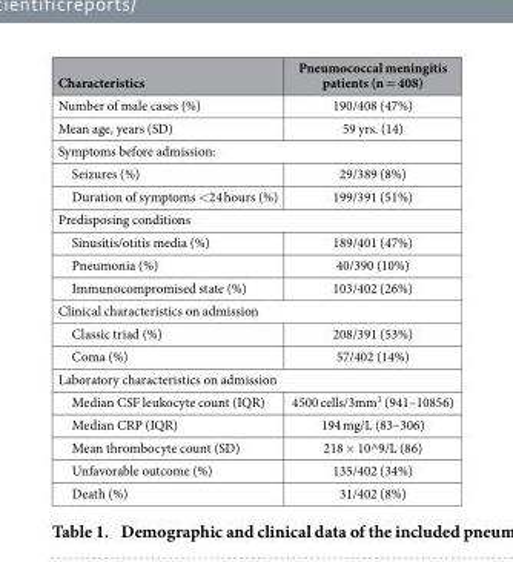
<table><thead><tr><td>Characteristics</td><td>Pneumococcal meningitis patients (n = 408)</td></tr></thead><tbody><tr><td>Number of male cases (%)</td><td>190/408 (47%)</td></tr><tr><td>Mean age, years (SD)</td><td>59 yrs. (14)</td></tr><tr><td colspan="2">Symptoms before admission:</td></tr><tr><td>Seizures (%)</td><td>29/389 (8%)</td></tr><tr><td>Duration of symptoms &lt; 24 hours (%)</td><td>199/391 (51%)</td></tr><tr><td colspan="2">Predisposing conditions</td></tr><tr><td>Sinusitis/otitis media (%)</td><td>189/401 (47%)</td></tr><tr><td>Pneumonia (%)</td><td>40/390 (10%)</td></tr><tr><td>Immunocompromised state (%)</td><td>103/402 (26%)</td></tr><tr><td colspan="2">Clinical characteristics on admission</td></tr><tr><td>Classic triad (%)</td><td>208/391 (53%)</td></tr><tr><td>Coma (%)</td><td>57/402 (14%)</td></tr><tr><td colspan="2">Laboratory characteristics on admission</td></tr><tr><td>Median CSF leukocyte count (IQR)</td><td>4500 cells/3mm<sup>3</sup> (941–10856)</td></tr><tr><td>Median CRP (IQR)</td><td>194 mg/L (83–306)</td></tr><tr><td>Mean thrombocyte count (SD)</td><td>218 × 10^9/L (86)</td></tr><tr><td>Unfavorable outcome (%)</td><td>135/402 (34%)</td></tr><tr><td>Death (%)</td><td>31/402 (8%)</td></tr></tbody></table>